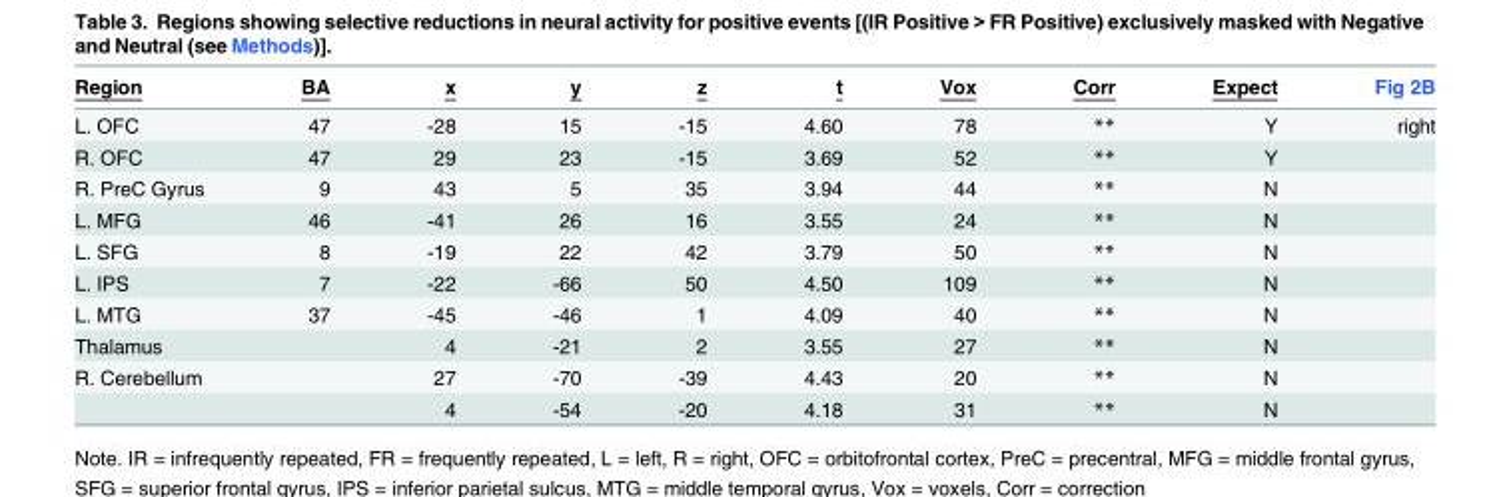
<table><thead><tr><td>Region</td><td>BA</td><td>x</td><td>y</td><td>z</td><td>t</td><td>Vox</td><td>Corr</td><td>Expect</td><td>Fig 2B</td></tr></thead><tbody><tr><td>L. OFC</td><td>47</td><td>-28</td><td>15</td><td>-15</td><td>4.60</td><td>78</td><td>**</td><td>Y</td><td>right</td></tr><tr><td>R. OFC</td><td>47</td><td>29</td><td>23</td><td>-15</td><td>3.69</td><td>52</td><td>**</td><td>Y</td><td></td></tr><tr><td>R. PreC Gyrus</td><td>9</td><td>43</td><td>5</td><td>35</td><td>3.94</td><td>44</td><td>**</td><td>N</td><td></td></tr><tr><td>L. MFG</td><td>46</td><td>-41</td><td>26</td><td>16</td><td>3.55</td><td>24</td><td>**</td><td>N</td><td></td></tr><tr><td>L. SFG</td><td>8</td><td>-19</td><td>22</td><td>42</td><td>3.79</td><td>50</td><td>**</td><td>N</td><td></td></tr><tr><td>L. IPS</td><td>7</td><td>-22</td><td>-66</td><td>50</td><td>4.50</td><td>109</td><td>**</td><td>N</td><td></td></tr><tr><td>L. MTG</td><td>37</td><td>-45</td><td>-46</td><td>1</td><td>4.09</td><td>40</td><td>**</td><td>N</td><td></td></tr><tr><td>Thalamus</td><td></td><td>4</td><td>-21</td><td>2</td><td>3.55</td><td>27</td><td>**</td><td>N</td><td></td></tr><tr><td rowspan="2">R. Cerebellum</td><td></td><td>27</td><td>-70</td><td>-39</td><td>4.43</td><td>20</td><td>**</td><td>N</td><td></td></tr><tr><td></td><td>4</td><td>-54</td><td>-20</td><td>4.18</td><td>31</td><td>**</td><td>N</td><td></td></tr></tbody></table>